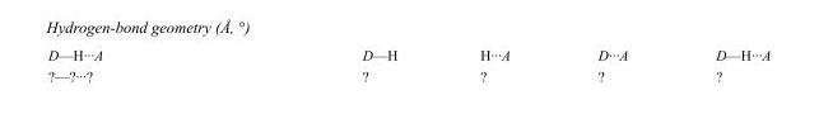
<table><tbody><tr><td>D—H···A</td><td>D—H</td><td>H···A</td><td>D···A</td><td>D—H···A</td></tr><tr><td>?—?···?</td><td>?</td><td>?</td><td>?</td><td>?</td></tr></tbody></table>